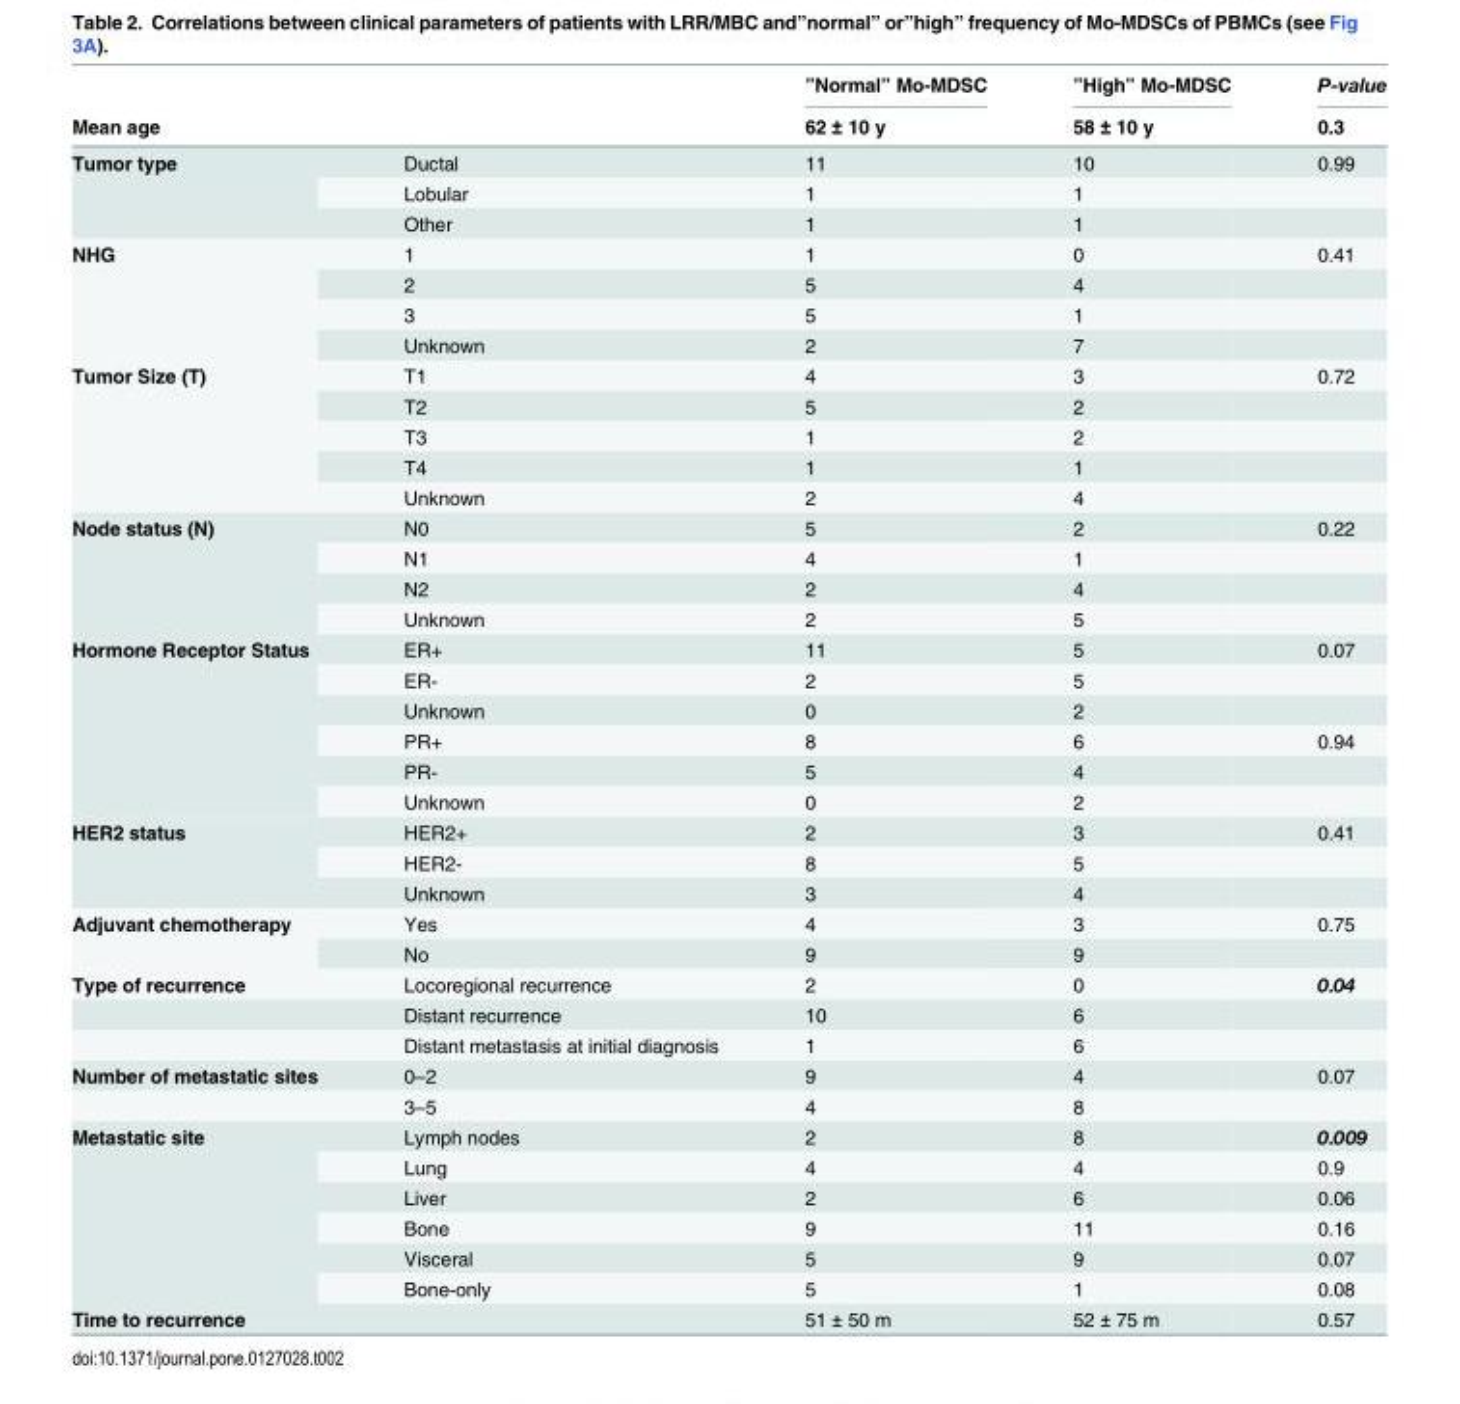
<table><thead><tr><td rowspan="2">Mean age</td><td rowspan="2"></td><td rowspan="2">”Normal” Mo-MDSC 62 ± 10 y</td><td rowspan="2">”High” Mo-MDSC 58 ± 10 y</td><td rowspan="2">P-value 0.3</td></tr><tr></tr></thead><tbody><tr><td rowspan="3">Tumor type</td><td>Ductal</td><td>11</td><td>10</td><td>0.99</td></tr><tr><td>Lobular</td><td>1</td><td>1</td><td></td></tr><tr><td>Other</td><td>1</td><td>1</td><td></td></tr><tr><td rowspan="4">NHG</td><td>1</td><td>1</td><td>0</td><td>0.41</td></tr><tr><td>2</td><td>5</td><td>4</td><td></td></tr><tr><td>3</td><td>5</td><td>1</td><td></td></tr><tr><td>Unknown</td><td>2</td><td>7</td><td></td></tr><tr><td rowspan="5">Tumor Size (T)</td><td>T1</td><td>4</td><td>3</td><td>0.72</td></tr><tr><td>T2</td><td>5</td><td>2</td><td></td></tr><tr><td>T3</td><td>1</td><td>2</td><td></td></tr><tr><td>T4</td><td>1</td><td>1</td><td></td></tr><tr><td>Unknown</td><td>2</td><td>4</td><td></td></tr><tr><td rowspan="4">Node status (N)</td><td>N0</td><td>5</td><td>2</td><td>0.22</td></tr><tr><td>N1</td><td>4</td><td>1</td><td></td></tr><tr><td>N2</td><td>2</td><td>4</td><td></td></tr><tr><td>Unknown</td><td>2</td><td>5</td><td></td></tr><tr><td rowspan="6">Hormone Receptor Status</td><td>ER+</td><td>11</td><td>5</td><td>0.07</td></tr><tr><td>ER-</td><td>2</td><td>5</td><td></td></tr><tr><td>Unknown</td><td>0</td><td>2</td><td></td></tr><tr><td>PR+</td><td>8</td><td>6</td><td>0.94</td></tr><tr><td>PR-</td><td>5</td><td>4</td><td></td></tr><tr><td>Unknown</td><td>0</td><td>2</td><td></td></tr><tr><td rowspan="3">HER2 status</td><td>HER2+</td><td>2</td><td>3</td><td>0.41</td></tr><tr><td>HER2-</td><td>8</td><td>5</td><td></td></tr><tr><td>Unknown</td><td>3</td><td>4</td><td></td></tr><tr><td rowspan="2">Adjuvant chemotherapy</td><td>Yes</td><td>4</td><td>3</td><td>0.75</td></tr><tr><td>No</td><td>9</td><td>9</td><td></td></tr><tr><td rowspan="3">Type of recurrence</td><td>Locoregional recurrence</td><td>2</td><td>0</td><td>0.04</td></tr><tr><td>Distant recurrence</td><td>10</td><td>6</td><td></td></tr><tr><td>Distant metastasis at initial diagnosis</td><td>1</td><td>6</td><td></td></tr><tr><td rowspan="2">Number of metastatic sites</td><td>0–2</td><td>9</td><td>4</td><td>0.07</td></tr><tr><td>3–5</td><td>4</td><td>8</td><td></td></tr><tr><td rowspan="6">Metastatic site</td><td>Lymph nodes</td><td>2</td><td>8</td><td>0.009</td></tr><tr><td>Lung</td><td>4</td><td>4</td><td>0.9</td></tr><tr><td>Liver</td><td>2</td><td>6</td><td>0.06</td></tr><tr><td>Bone</td><td>9</td><td>11</td><td>0.16</td></tr><tr><td>Visceral</td><td>5</td><td>9</td><td>0.07</td></tr><tr><td>Bone-only</td><td>5</td><td>1</td><td>0.08</td></tr><tr><td>Time to recurrence</td><td></td><td>51 ± 50 m</td><td>52 ± 75 m</td><td>0.57</td></tr></tbody></table>